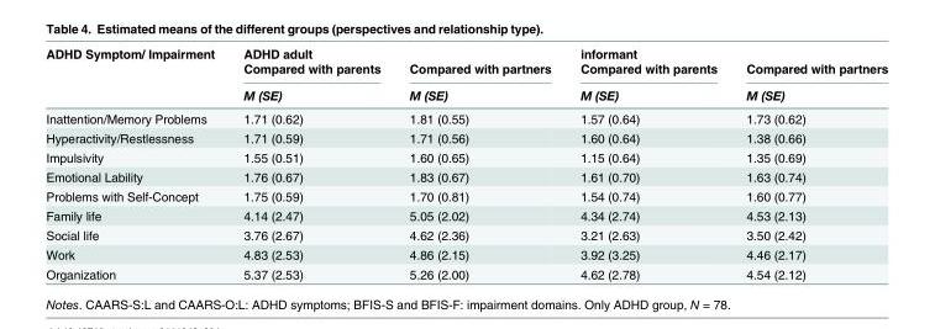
<table><thead><tr><td rowspan="3">ADHD Symptom/ Impairment</td><td rowspan="3">ADHD adult Compared with parents M (SE)</td><td rowspan="3">Compared with partners M (SE)</td><td rowspan="3">informant Compared with parents M (SE)</td><td rowspan="3">Compared with partners M (SE)</td></tr><tr></tr><tr></tr></thead><tbody><tr><td>Inattention/Memory Problems</td><td>1.71 (0.62)</td><td>1.81 (0.55)</td><td>1.57 (0.64)</td><td>1.73 (0.62)</td></tr><tr><td>Hyperactivity/Restlessness</td><td>1.71 (0.59)</td><td>1.71 (0.56)</td><td>1.60 (0.64)</td><td>1.38 (0.66)</td></tr><tr><td>Impulsivity</td><td>1.55 (0.51)</td><td>1.60 (0.65)</td><td>1.15 (0.64)</td><td>1.35 (0.69)</td></tr><tr><td>Emotional Lability</td><td>1.76 (0.67)</td><td>1.83 (0.67)</td><td>1.61 (0.70)</td><td>1.63 (0.74)</td></tr><tr><td>Problems with Self-Concept</td><td>1.75 (0.59)</td><td>1.70 (0.81)</td><td>1.54 (0.74)</td><td>1.60 (0.77)</td></tr><tr><td>Family life</td><td>4.14 (2.47)</td><td>5.05 (2.02)</td><td>4.34 (2.74)</td><td>4.53 (2.13)</td></tr><tr><td>Social life</td><td>3.76 (2.67)</td><td>4.62 (2.36)</td><td>3.21 (2.63)</td><td>3.50 (2.42)</td></tr><tr><td>Work</td><td>4.83 (2.53)</td><td>4.86 (2.15)</td><td>3.92 (3.25)</td><td>4.46 (2.17)</td></tr><tr><td>Organization</td><td>5.37 (2.53)</td><td>5.26 (2.00)</td><td>4.62 (2.78)</td><td>4.54 (2.12)</td></tr></tbody></table>